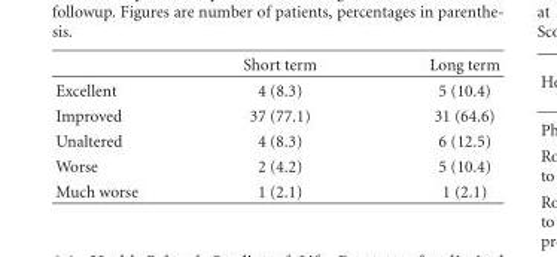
<table><thead><tr><td></td><td>Short term</td><td>Long term</td></tr></thead><tbody><tr><td>Excellent</td><td>4 (8.3)</td><td>5 (10.4)</td></tr><tr><td>Improved</td><td>37 (77.1)</td><td>31 (64.6)</td></tr><tr><td>Unaltered</td><td>4 (8.3)</td><td>6 (12.5)</td></tr><tr><td>Worse</td><td>2 (4.2)</td><td>5 (10.4)</td></tr><tr><td>Much worse</td><td>1 (2.1)</td><td>1 (2.1)</td></tr></tbody></table>